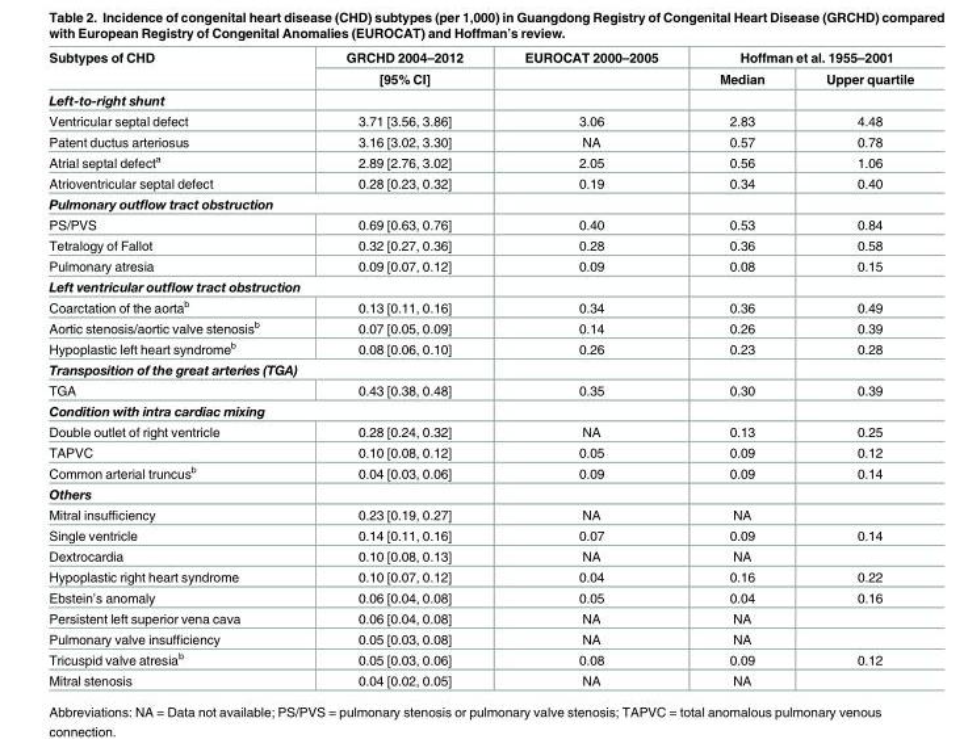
<table><thead><tr><td rowspan="2">Subtypes of CHD</td><td rowspan="2">GRCHD 2004–2012 [95% CI]</td><td rowspan="2">EUROCAT 2000–2005</td><td colspan="2">Hoffman et al. 1955–2001</td></tr><tr><td>Median</td><td>Upper quartile</td></tr></thead><tbody><tr><td colspan="5">Left-to-right shunt</td></tr><tr><td>Ventricular septal defect</td><td>3.71 [3.56, 3.86]</td><td>3.06</td><td>2.83</td><td>4.48</td></tr><tr><td>Patent ductus arteriosus</td><td>3.16 [3.02, 3.30]</td><td>NA</td><td>0.57</td><td>0.78</td></tr><tr><td>Atrial septal defect<sup>a</sup></td><td>2.89 [2.76, 3.02]</td><td>2.05</td><td>0.56</td><td>1.06</td></tr><tr><td>Atrioventricular septal defect</td><td>0.28 [0.23, 0.32]</td><td>0.19</td><td>0.34</td><td>0.40</td></tr><tr><td colspan="5">Pulmonary outflow tract obstruction</td></tr><tr><td>PS/PVS</td><td>0.69 [0.63, 0.76]</td><td>0.40</td><td>0.53</td><td>0.84</td></tr><tr><td>Tetralogy of Fallot</td><td>0.32 [0.27, 0.36]</td><td>0.28</td><td>0.36</td><td>0.58</td></tr><tr><td>Pulmonary atresia</td><td>0.09 [0.07, 0.12]</td><td>0.09</td><td>0.08</td><td>0.15</td></tr><tr><td colspan="5">Left ventricular outflow tract obstruction</td></tr><tr><td>Coarctation of the aorta<sup>b</sup></td><td>0.13 [0.11, 0.16]</td><td>0.34</td><td>0.36</td><td>0.49</td></tr><tr><td>Aortic stenosis/aortic valve stenosis<sup>b</sup></td><td>0.07 [0.05, 0.09]</td><td>0.14</td><td>0.26</td><td>0.39</td></tr><tr><td>Hypoplastic left heart syndrome<sup>b</sup></td><td>0.08 [0.06, 0.10]</td><td>0.26</td><td>0.23</td><td>0.28</td></tr><tr><td colspan="5">Transposition of the great arteries (TGA)</td></tr><tr><td>TGA</td><td>0.43 [0.38, 0.48]</td><td>0.35</td><td>0.30</td><td>0.39</td></tr><tr><td colspan="5">Condition with intra cardiac mixing</td></tr><tr><td>Double outlet of right ventricle</td><td>0.28 [0.24, 0.32]</td><td>NA</td><td>0.13</td><td>0.25</td></tr><tr><td>TAPVC</td><td>0.10 [0.08, 0.12]</td><td>0.05</td><td>0.09</td><td>0.12</td></tr><tr><td>Common arterial truncus<sup>b</sup></td><td>0.04 [0.03, 0.06]</td><td>0.09</td><td>0.09</td><td>0.14</td></tr><tr><td colspan="5">Others</td></tr><tr><td>Mitral insufficiency</td><td>0.23 [0.19, 0.27]</td><td>NA</td><td>NA</td><td></td></tr><tr><td>Single ventricle</td><td>0.14 [0.11, 0.16]</td><td>0.07</td><td>0.09</td><td>0.14</td></tr><tr><td>Dextrocardia</td><td>0.10 [0.08, 0.13]</td><td>NA</td><td>NA</td><td></td></tr><tr><td>Hypoplastic right heart syndrome</td><td>0.10 [0.07, 0.12]</td><td>0.04</td><td>0.16</td><td>0.22</td></tr><tr><td>Ebstein’s anomaly</td><td>0.06 [0.04, 0.08]</td><td>0.05</td><td>0.04</td><td>0.16</td></tr><tr><td>Persistent left superior vena cava</td><td>0.06 [0.04, 0.08]</td><td>NA</td><td>NA</td><td></td></tr><tr><td>Pulmonary valve insufficiency</td><td>0.05 [0.03, 0.08]</td><td>NA</td><td>NA</td><td></td></tr><tr><td>Tricuspid valve atresia<sup>b</sup></td><td>0.05 [0.03, 0.06]</td><td>0.08</td><td>0.09</td><td>0.12</td></tr><tr><td>Mitral stenosis</td><td>0.04 [0.02, 0.05]</td><td>NA</td><td>NA</td><td></td></tr></tbody></table>